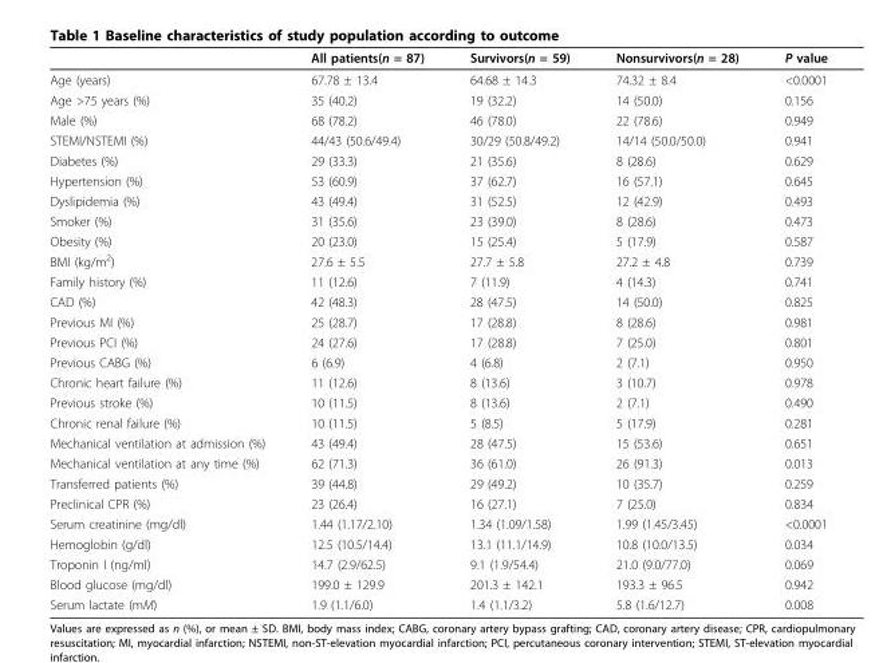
<table><thead><tr><td></td><td>All patients(n = 87)</td><td>Survivors(n = 59)</td><td>Nonsurvivors(n = 28)</td><td>P value</td></tr></thead><tbody><tr><td>Age (years)</td><td>67.78 ± 13.4</td><td>64.68 ± 14.3</td><td>74.32 ± 8.4</td><td>&lt;0.0001</td></tr><tr><td>Age &gt;75 years (%)</td><td>35 (40.2)</td><td>19 (32.2)</td><td>14 (50.0)</td><td>0.156</td></tr><tr><td>Male (%)</td><td>68 (78.2)</td><td>46 (78.0)</td><td>22 (78.6)</td><td>0.949</td></tr><tr><td>STEMI/NSTEMI (%)</td><td>44/43 (50.6/49.4)</td><td>30/29 (50.8/49.2)</td><td>14/14 (50.0/50.0)</td><td>0.941</td></tr><tr><td>Diabetes (%)</td><td>29 (33.3)</td><td>21 (35.6)</td><td>8 (28.6)</td><td>0.629</td></tr><tr><td>Hypertension (%)</td><td>53 (60.9)</td><td>37 (62.7)</td><td>16 (57.1)</td><td>0.645</td></tr><tr><td>Dyslipidemia (%)</td><td>43 (49.4)</td><td>31 (52.5)</td><td>12 (42.9)</td><td>0.493</td></tr><tr><td>Smoker (%)</td><td>31 (35.6)</td><td>23 (39.0)</td><td>8 (28.6)</td><td>0.473</td></tr><tr><td>Obesity (%)</td><td>20 (23.0)</td><td>15 (25.4)</td><td>5 (17.9)</td><td>0.587</td></tr><tr><td>BMI (kg/m<sup>2</sup>)</td><td>27.6 ± 5.5</td><td>27.7 ± 5.8</td><td>27.2 ± 4.8</td><td>0.739</td></tr><tr><td>Family history (%)</td><td>11 (12.6)</td><td>7 (11.9)</td><td>4 (14.3)</td><td>0.741</td></tr><tr><td>CAD (%)</td><td>42 (48.3)</td><td>28 (47.5)</td><td>14 (50.0)</td><td>0.825</td></tr><tr><td>Previous MI (%)</td><td>25 (28.7)</td><td>17 (28.8)</td><td>8 (28.6)</td><td>0.981</td></tr><tr><td>Previous PCI (%)</td><td>24 (27.6)</td><td>17 (28.8)</td><td>7 (25.0)</td><td>0.801</td></tr><tr><td>Previous CABG (%)</td><td>6 (6.9)</td><td>4 (6.8)</td><td>2 (7.1)</td><td>0.950</td></tr><tr><td>Chronic heart failure (%)</td><td>11 (12.6)</td><td>8 (13.6)</td><td>3 (10.7)</td><td>0.978</td></tr><tr><td>Previous stroke (%)</td><td>10 (11.5)</td><td>8 (13.6)</td><td>2 (7.1)</td><td>0.490</td></tr><tr><td>Chronic renal failure (%)</td><td>10 (11.5)</td><td>5 (8.5)</td><td>5 (17.9)</td><td>0.281</td></tr><tr><td>Mechanical ventilation at admission (%)</td><td>43 (49.4)</td><td>28 (47.5)</td><td>15 (53.6)</td><td>0.651</td></tr><tr><td>Mechanical ventilation at any time (%)</td><td>62 (71.3)</td><td>36 (61.0)</td><td>26 (91.3)</td><td>0.013</td></tr><tr><td>Transferred patients (%)</td><td>39 (44.8)</td><td>29 (49.2)</td><td>10 (35.7)</td><td>0.259</td></tr><tr><td>Preclinical CPR (%)</td><td>23 (26.4)</td><td>16 (27.1)</td><td>7 (25.0)</td><td>0.834</td></tr><tr><td>Serum creatinine (mg/dl)</td><td>1.44 (1.17/2.10)</td><td>1.34 (1.09/1.58)</td><td>1.99 (1.45/3.45)</td><td>&lt;0.0001</td></tr><tr><td>Hemoglobin (g/dl)</td><td>12.5 (10.5/14.4)</td><td>13.1 (11.1/14.9)</td><td>10.8 (10.0/13.5)</td><td>0.034</td></tr><tr><td>Troponin I (ng/ml)</td><td>14.7 (2.9/62.5)</td><td>9.1 (1.9/54.4)</td><td>21.0 (9.0/77.0)</td><td>0.069</td></tr><tr><td>Blood glucose (mg/dl)</td><td>199.0 ± 129.9</td><td>201.3 ± 142.1</td><td>193.3 ± 96.5</td><td>0.942</td></tr><tr><td>Serum lactate (mM)</td><td>1.9 (1.1/6.0)</td><td>1.4 (1.1/3.2)</td><td>5.8 (1.6/12.7)</td><td>0.008</td></tr></tbody></table>